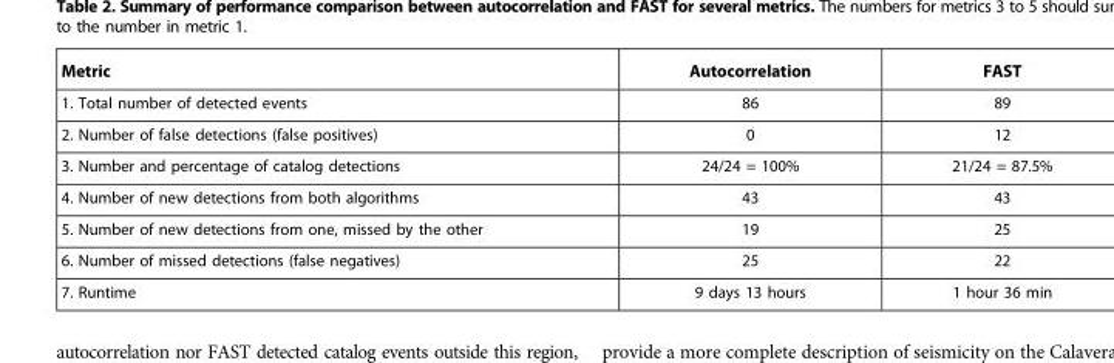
<table><thead><tr><td>Metric</td><td>Autocorrelation</td><td>FAST</td></tr></thead><tbody><tr><td>1. Total number of detected events</td><td>86</td><td>89</td></tr><tr><td>2. Number of false detections (false positives)</td><td>0</td><td>12</td></tr><tr><td>3. Number and percentage of catalog detections</td><td>24/24 = 100%</td><td>21/24 = 87.5%</td></tr><tr><td>4. Number of new detections from both algorithms</td><td>43</td><td>43</td></tr><tr><td>5. Number of new detections from one, missed by the other</td><td>19</td><td>25</td></tr><tr><td>6. Number of missed detections (false negatives)</td><td>25</td><td>22</td></tr><tr><td>7. Runtime</td><td>9 days 13 hours</td><td>1 hour 36 min</td></tr></tbody></table>